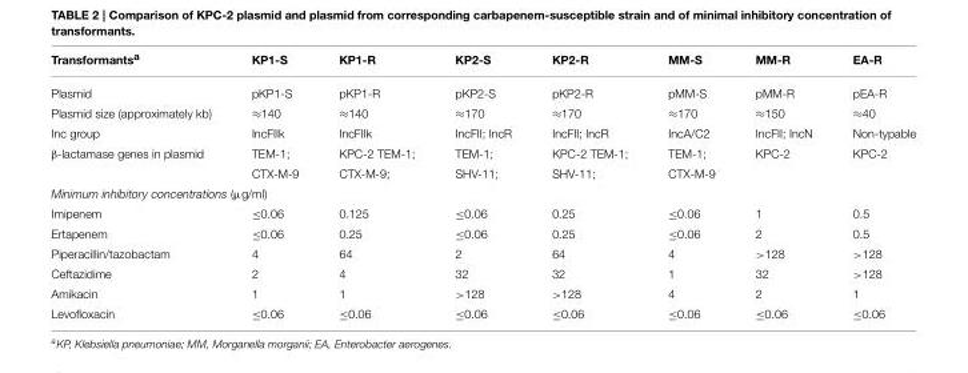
<table><thead><tr><td>Transformants<sup>a</sup></td><td>KP1-S</td><td>KP1-R</td><td>KP2-S</td><td>KP2-R</td><td>MM-S</td><td>MM-R</td><td>EA-R</td></tr></thead><tbody><tr><td>Plasmid</td><td>pKP1-S</td><td>pKP1-R</td><td>pKP2-S</td><td>pKP2-R</td><td>pMM-S</td><td>pMM-R</td><td>pEA-R</td></tr><tr><td>Plasmid size (approximately kb)</td><td>≈140</td><td>≈140</td><td>≈170</td><td>≈170</td><td>≈170</td><td>≈150</td><td>≈40</td></tr><tr><td>Inc group</td><td>IncFIIk</td><td>IncFIIk</td><td>IncFII; IncR</td><td>IncFII; IncR</td><td>IncA/C2</td><td>IncFII; IncN</td><td>Non-typable</td></tr><tr><td rowspan="2">β-lactamase genes in plasmid</td><td>TEM-1;</td><td>KPC-2 TEM-1;</td><td>TEM-1;</td><td>KPC-2 TEM-1;</td><td>TEM-1;</td><td>KPC-2</td><td>KPC-2</td></tr><tr><td>CTX-M-9</td><td>CTX-M-9;</td><td>SHV-11;</td><td>SHV-11;</td><td>CTX-M-9</td><td></td><td></td></tr><tr><td colspan="8">Minimum inhibitory concentrations (µg/ml)</td></tr><tr><td>Imipenem</td><td>≤0.06</td><td>0.125</td><td>≤0.06</td><td>0.25</td><td>≤0.06</td><td>1</td><td>0.5</td></tr><tr><td>Ertapenem</td><td>≤0.06</td><td>0.25</td><td>≤0.06</td><td>0.25</td><td>≤0.06</td><td>2</td><td>0.5</td></tr><tr><td>Piperacillin/tazobactam</td><td>4</td><td>64</td><td>2</td><td>64</td><td>4</td><td>&gt;128</td><td>&gt;128</td></tr><tr><td>Ceftazidime</td><td>2</td><td>4</td><td>32</td><td>32</td><td>1</td><td>32</td><td>&gt;128</td></tr><tr><td>Amikacin</td><td>1</td><td>1</td><td>&gt;128</td><td>&gt;128</td><td>4</td><td>2</td><td>1</td></tr><tr><td>Levofloxacin</td><td>≤0.06</td><td>≤0.06</td><td>≤0.06</td><td>≤0.06</td><td>≤0.06</td><td>≤0.06</td><td>≤0.06</td></tr></tbody></table>